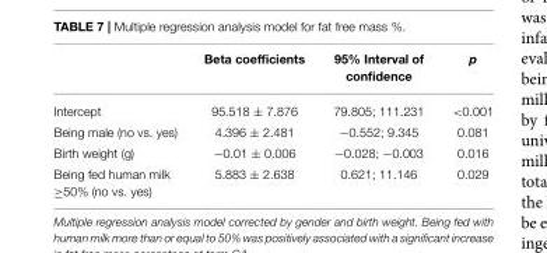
<table><thead><tr><td></td><td>Beta coefficients</td><td>95% Interval of confidence</td><td>p</td></tr></thead><tbody><tr><td>Intercept</td><td>95.518 ± 7.876</td><td>79.805; 111.231</td><td>&lt;0.001</td></tr><tr><td>Being male (no vs. yes)</td><td>4.396 ± 2.481</td><td>−0.552; 9.345</td><td>0.081</td></tr><tr><td>Birth weight (g)</td><td>−0.01 ± 0.006</td><td>−0.028; −0.003</td><td>0.016</td></tr><tr><td>Being fed human milk ≥50% (no vs. yes)</td><td>5.883 ± 2.638</td><td>0.621; 11.146</td><td>0.029</td></tr></tbody></table>